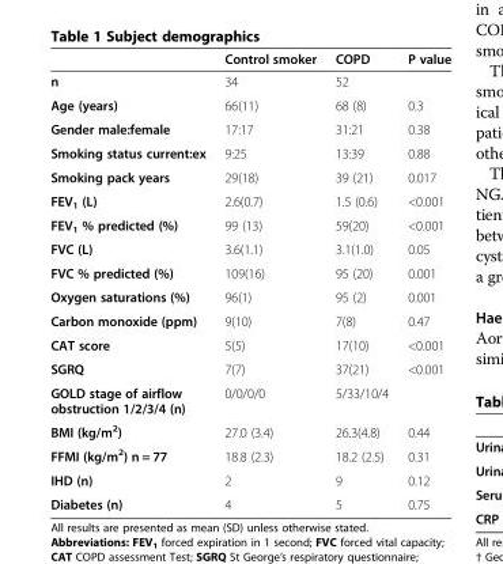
<table><thead><tr><td></td><td>Control smoker</td><td>COPD</td><td>P value</td></tr></thead><tbody><tr><td>n</td><td>34</td><td>52</td><td></td></tr><tr><td>Age (years)</td><td>66(11)</td><td>68 (8)</td><td>0.3</td></tr><tr><td>Gender male:female</td><td>17:17</td><td>31:21</td><td>0.38</td></tr><tr><td>Smoking status current:ex</td><td>9:25</td><td>13:39</td><td>0.88</td></tr><tr><td>Smoking pack years</td><td>29(18)</td><td>39 (21)</td><td>0.017</td></tr><tr><td>FEV<sub>1</sub> (L)</td><td>2.6(0.7)</td><td>1.5 (0.6)</td><td>&lt;0.001</td></tr><tr><td>FEV<sub>1</sub> % predicted (%)</td><td>99 (13)</td><td>59(20)</td><td>&lt;0.001</td></tr><tr><td>FVC (L)</td><td>3.6(1.1)</td><td>3.1(1.0)</td><td>0.05</td></tr><tr><td>FVC % predicted (%)</td><td>109(16)</td><td>95 (20)</td><td>0.001</td></tr><tr><td>Oxygen saturations (%)</td><td>96(1)</td><td>95 (2)</td><td>0.001</td></tr><tr><td>Carbon monoxide (ppm)</td><td>9(10)</td><td>7(8)</td><td>0.47</td></tr><tr><td>CAT score</td><td>5(5)</td><td>17(10)</td><td>&lt;0.001</td></tr><tr><td>SGRQ</td><td>7(7)</td><td>37(21)</td><td>&lt;0.001</td></tr><tr><td>GOLD stage of airflow obstruction 1/2/3/4 (n)</td><td>0/0/0/0</td><td>5/33/10/4</td><td></td></tr><tr><td>BMI (kg/m<sup>2</sup>)</td><td>27.0 (3.4)</td><td>26.3(4.8)</td><td>0.44</td></tr><tr><td>FFMI (kg/m<sup>2</sup>) n = 77</td><td>18.8 (2.3)</td><td>18.2 (2.5)</td><td>0.31</td></tr><tr><td>IHD (n)</td><td>2</td><td>9</td><td>0.12</td></tr><tr><td>Diabetes (n)</td><td>4</td><td>5</td><td>0.75</td></tr></tbody></table>